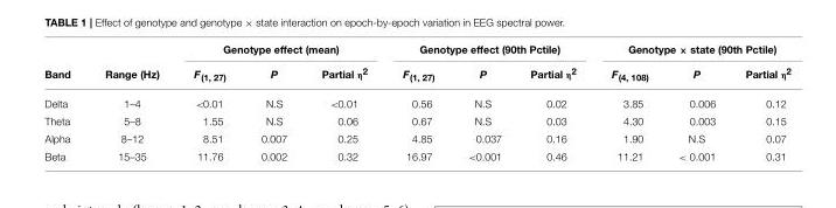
<table><thead><tr><td rowspan="2">Band</td><td rowspan="2">Range (Hz)</td><td colspan="3">Genotype effect (mean)</td><td colspan="3">Genotype effect (90th Pctile)</td><td colspan="3">Genotype × state (90th Pctile)</td></tr><tr><td>F<sub>(1, 27)</sub></td><td>P</td><td>Partial η<sup>2</sup></td><td>F<sub>(1, 27)</sub></td><td>P</td><td>Partial η<sup>2</sup></td><td>F<sub>(4, 108)</sub></td><td>P</td><td>Partial η<sup>2</sup></td></tr></thead><tbody><tr><td>Delta</td><td>1–4</td><td>&lt;0.01</td><td>N.S</td><td>&lt;0.01</td><td>0.56</td><td>N.S</td><td>0.02</td><td>3.85</td><td>0.006</td><td>0.12</td></tr><tr><td>Theta</td><td>5–8</td><td>1.55</td><td>N.S</td><td>0.06</td><td>0.67</td><td>N.S</td><td>0.03</td><td>4.30</td><td>0.003</td><td>0.15</td></tr><tr><td>Alpha</td><td>8–12</td><td>8.51</td><td>0.007</td><td>0.25</td><td>4.85</td><td>0.037</td><td>0.16</td><td>1.90</td><td>N.S</td><td>0.07</td></tr><tr><td>Beta</td><td>15–35</td><td>11.76</td><td>0.002</td><td>0.32</td><td>16.97</td><td>&lt;0.001</td><td>0.46</td><td>11.21</td><td>&lt; 0.001</td><td>0.31</td></tr></tbody></table>